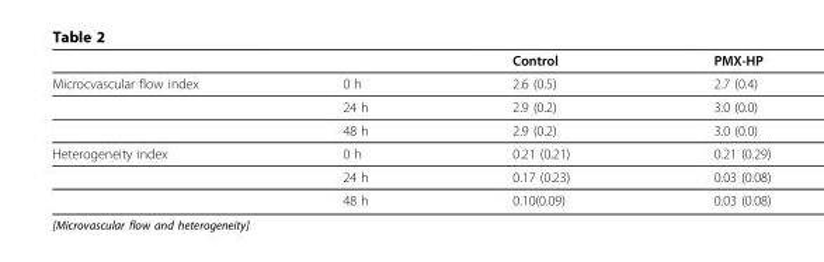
<table><thead><tr><td></td><td></td><td>Control</td><td>PMX-HP</td></tr></thead><tbody><tr><td rowspan="3">Microcvascular flow index</td><td>0 h</td><td>2.6 (0.5)</td><td>2.7 (0.4)</td></tr><tr><td>24 h</td><td>2.9 (0.2)</td><td>3.0 (0.0)</td></tr><tr><td>48 h</td><td>2.9 (0.2)</td><td>3.0 (0.0)</td></tr><tr><td rowspan="3">Heterogeneity index</td><td>0 h</td><td>0.21 (0.21)</td><td>0.21 (0.29)</td></tr><tr><td>24 h</td><td>0.17 (0.23)</td><td>0.03 (0.08)</td></tr><tr><td>48 h</td><td>0.10(0.09)</td><td>0.03 (0.08)</td></tr></tbody></table>